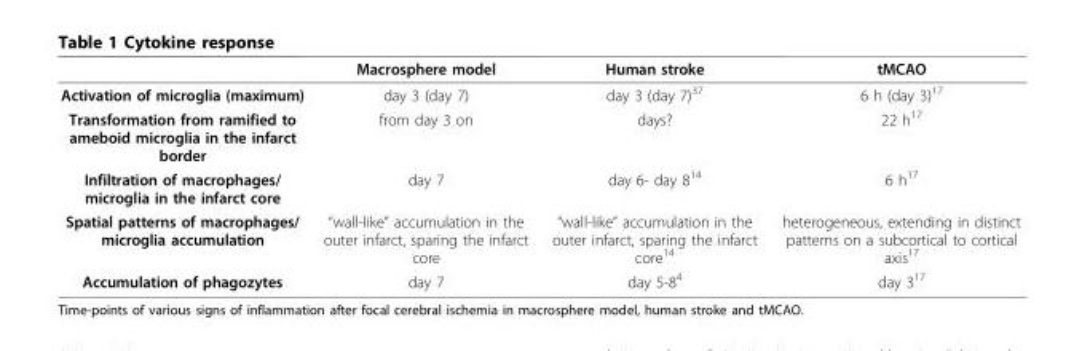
<table><thead><tr><td></td><td>Macrosphere model</td><td>Human stroke</td><td>tMCAO</td></tr></thead><tbody><tr><td>Activation of microglia (maximum)</td><td>day 3 (day 7)</td><td>day 3 (day 7)<sup>37</sup></td><td>6 h (day 3)<sup>17</sup></td></tr><tr><td>Transformation from ramified to ameboid microglia in the infarct border</td><td>from day 3 on</td><td>days?</td><td>22 h<sup>17</sup></td></tr><tr><td>Infiltration of macrophages/ microglia in the infarct core</td><td>day 7</td><td>day 6- day 8<sup>14</sup></td><td>6 h<sup>17</sup></td></tr><tr><td>Spatial patterns of macrophages/ microglia accumulation</td><td>“wall-like” accumulation in the outer infarct, sparing the infarct core</td><td>“wall-like” accumulation in the outer infarct, sparing the infarct core14</td><td>heterogeneous, extending in distinct patterns on a subcortical to cortical axis<sup>17</sup></td></tr><tr><td>Accumulation of phagozytes</td><td>day 7</td><td>day 5-8<sup>4</sup></td><td>day 3<sup>17</sup></td></tr></tbody></table>